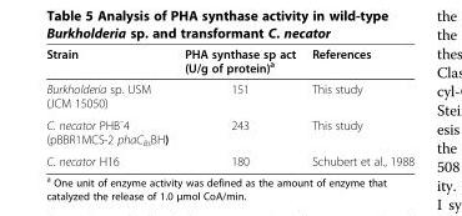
<table><thead><tr><td>Strain</td><td>PHA synthase sp act (U/g of protein)<sup>a</sup></td><td>References</td></tr></thead><tbody><tr><td>Burkholderia sp. USM (JCM 15050)</td><td>151</td><td>This study</td></tr><tr><td>C. necator PHB¯4 (pBBR1MCS-2 phaC<sub>Bs</sub>BH)</td><td>243</td><td>This study</td></tr><tr><td>C. necator H16</td><td>180</td><td>Schubert et al., 1988</td></tr></tbody></table>